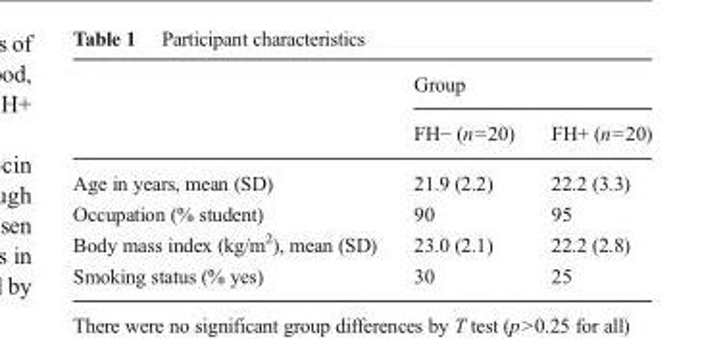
<table><thead><tr><td rowspan="2"></td><td colspan="2">Group</td></tr><tr><td>FH− (n=20)</td><td>FH+ (n=20)</td></tr></thead><tbody><tr><td>Age in years, mean (SD)</td><td>21.9 (2.2)</td><td>22.2 (3.3)</td></tr><tr><td>Occupation (% student)</td><td>90</td><td>95</td></tr><tr><td>Body mass index (kg/m<sup>2</sup>), mean (SD)</td><td>23.0 (2.1)</td><td>22.2 (2.8)</td></tr><tr><td>Smoking status (% yes)</td><td>30</td><td>25</td></tr></tbody></table>